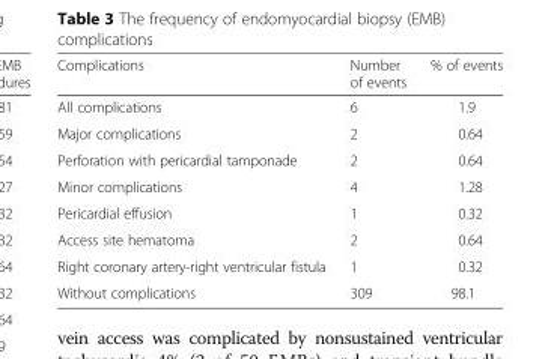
<table><thead><tr><td>Complications</td><td>Number of events</td><td>% of events</td></tr></thead><tbody><tr><td>All complications</td><td>6</td><td>1.9</td></tr><tr><td>Major complications</td><td>2</td><td>0.64</td></tr><tr><td>Perforation with pericardial tamponade</td><td>2</td><td>0.64</td></tr><tr><td>Minor complications</td><td>4</td><td>1.28</td></tr><tr><td>Pericardial effusion</td><td>1</td><td>0.32</td></tr><tr><td>Access site hematoma</td><td>2</td><td>0.64</td></tr><tr><td>Right coronary artery-right ventricular fistula</td><td>1</td><td>0.32</td></tr><tr><td>Without complications</td><td>309</td><td>98.1</td></tr></tbody></table>